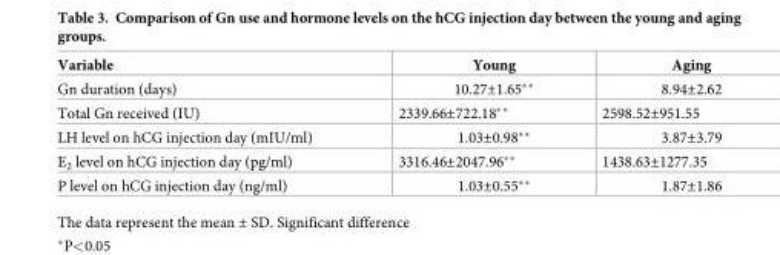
<table><thead><tr><td>Variable</td><td>Young</td><td>Aging</td></tr></thead><tbody><tr><td>Gn duration (days)</td><td>10.27±1.65**</td><td>8.94±2.62</td></tr><tr><td>Total Gn received (IU)</td><td>2339.66±722.18**</td><td>2598.52±951.55</td></tr><tr><td>LH level on hCG injection day (mIU/ml)</td><td>1.03±0.98**</td><td>3.87±3.79</td></tr><tr><td>E<sub>2</sub> level on hCG injection day (pg/ml)</td><td>3316.46±2047.96**</td><td>1438.63±1277.35</td></tr><tr><td>P level on hCG injection day (ng/ml)</td><td>1.03±0.55**</td><td>1.87±1.86</td></tr></tbody></table>